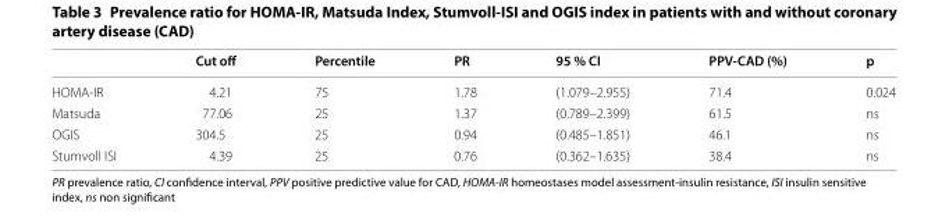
<table><thead><tr><td></td><td>Cut off</td><td>Percentile</td><td>PR</td><td>95 % CI</td><td>PPV-CAD (%)</td><td>p</td></tr></thead><tbody><tr><td>HOMA-IR</td><td>4.21</td><td>75</td><td>1.78</td><td>(1.079–2.955)</td><td>71.4</td><td>0.024</td></tr><tr><td>Matsuda</td><td>77.06</td><td>25</td><td>1.37</td><td>(0.789–2.399)</td><td>61.5</td><td>ns</td></tr><tr><td>OGIS</td><td>304.5</td><td>25</td><td>0.94</td><td>(0.485–1.851)</td><td>46.1</td><td>ns</td></tr><tr><td>Stumvoll ISI</td><td>4.39</td><td>25</td><td>0.76</td><td>(0.362–1.635)</td><td>38.4</td><td>ns</td></tr></tbody></table>